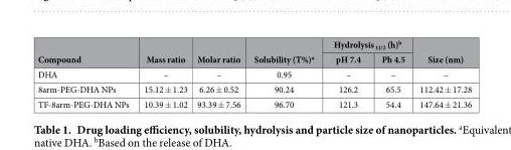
<table><thead><tr><td rowspan="2">Compound</td><td rowspan="2">Mass ratio</td><td rowspan="2">Molar ratio</td><td rowspan="2">Solubility (T%)<sup>a</sup></td><td colspan="2">Hydrolysis <sub>t1/2</sub> (h)<sup>b</sup></td><td rowspan="2">Size (nm)</td></tr><tr><td>pH 7.4</td><td>Ph 4.5</td></tr></thead><tbody><tr><td>DHA</td><td>–</td><td>–</td><td>0.95</td><td>–</td><td>–</td><td>–</td></tr><tr><td>8arm-PEG-DHA NPs</td><td>15.12 ± 1.23</td><td>6.26 ± 0.52</td><td>90.24</td><td>126.2</td><td>65.5</td><td>112.42 ± 17.28</td></tr><tr><td>TF-8arm-PEG-DHA NPs</td><td>10.39 ± 1.02</td><td>93.39 ± 7.56</td><td>96.70</td><td>121.3</td><td>54.4</td><td>147.64 ± 21.36</td></tr></tbody></table>